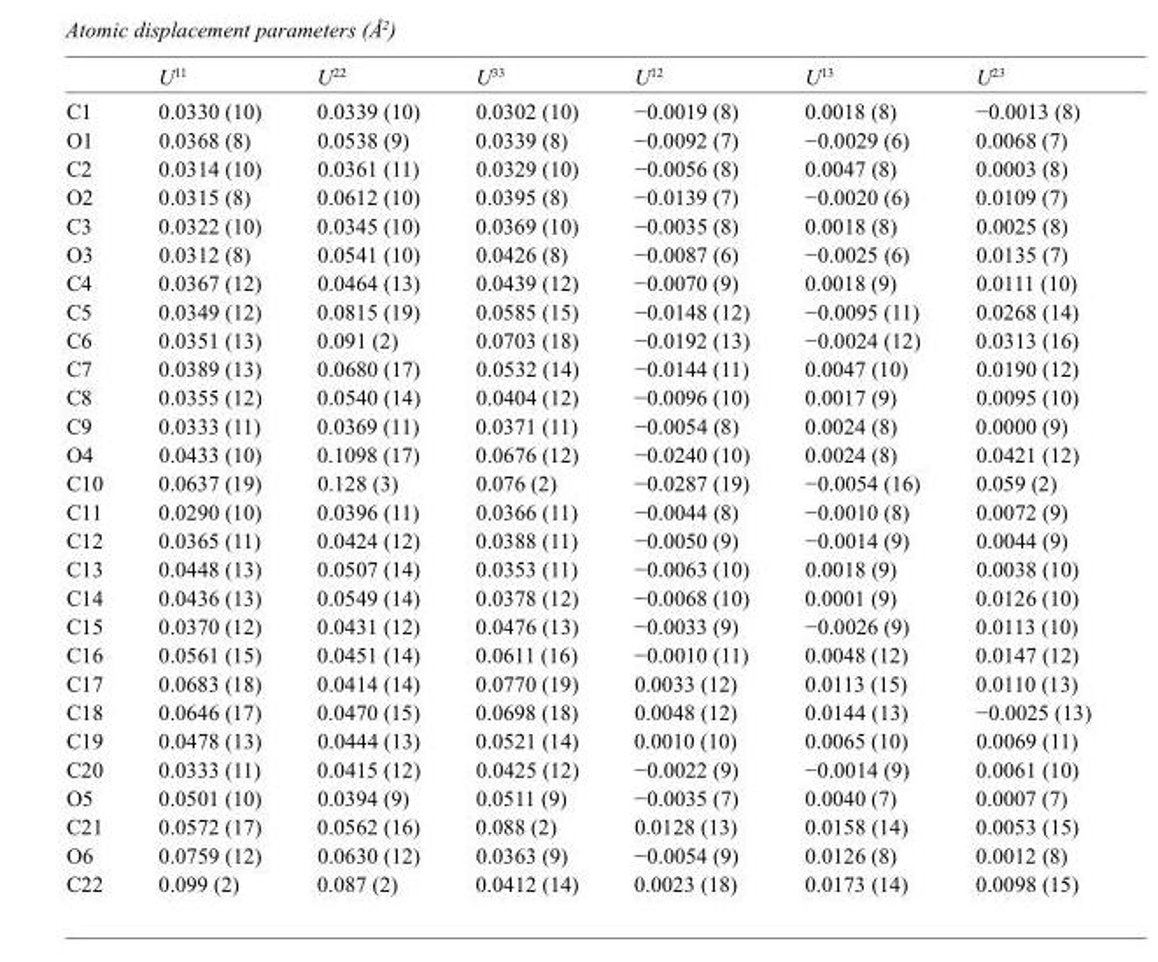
<table><thead><tr><td></td><td>U<sup>11</sup></td><td>U<sup>22</sup></td><td>U<sup>33</sup></td><td>U<sup>12</sup></td><td>U<sup>13</sup></td><td>U<sup>23</sup></td></tr></thead><tbody><tr><td>C1</td><td>0.0330 (10)</td><td>0.0339 (10)</td><td>0.0302 (10)</td><td>−0.0019 (8)</td><td>0.0018 (8)</td><td>−0.0013 (8)</td></tr><tr><td>O1</td><td>0.0368 (8)</td><td>0.0538 (9)</td><td>0.0339 (8)</td><td>−0.0092 (7)</td><td>−0.0029 (6)</td><td>0.0068 (7)</td></tr><tr><td>C2</td><td>0.0314 (10)</td><td>0.0361 (11)</td><td>0.0329 (10)</td><td>−0.0056 (8)</td><td>0.0047 (8)</td><td>0.0003 (8)</td></tr><tr><td>O2</td><td>0.0315 (8)</td><td>0.0612 (10)</td><td>0.0395 (8)</td><td>−0.0139 (7)</td><td>−0.0020 (6)</td><td>0.0109 (7)</td></tr><tr><td>C3</td><td>0.0322 (10)</td><td>0.0345 (10)</td><td>0.0369 (10)</td><td>−0.0035 (8)</td><td>0.0018 (8)</td><td>0.0025 (8)</td></tr><tr><td>O3</td><td>0.0312 (8)</td><td>0.0541 (10)</td><td>0.0426 (8)</td><td>−0.0087 (6)</td><td>−0.0025 (6)</td><td>0.0135 (7)</td></tr><tr><td>C4</td><td>0.0367 (12)</td><td>0.0464 (13)</td><td>0.0439 (12)</td><td>−0.0070 (9)</td><td>0.0018 (9)</td><td>0.0111 (10)</td></tr><tr><td>C5</td><td>0.0349 (12)</td><td>0.0815 (19)</td><td>0.0585 (15)</td><td>−0.0148 (12)</td><td>−0.0095 (11)</td><td>0.0268 (14)</td></tr><tr><td>C6</td><td>0.0351 (13)</td><td>0.091 (2)</td><td>0.0703 (18)</td><td>−0.0192 (13)</td><td>−0.0024 (12)</td><td>0.0313 (16)</td></tr><tr><td>C7</td><td>0.0389 (13)</td><td>0.0680 (17)</td><td>0.0532 (14)</td><td>−0.0144 (11)</td><td>0.0047 (10)</td><td>0.0190 (12)</td></tr><tr><td>C8</td><td>0.0355 (12)</td><td>0.0540 (14)</td><td>0.0404 (12)</td><td>−0.0096 (10)</td><td>0.0017 (9)</td><td>0.0095 (10)</td></tr><tr><td>C9</td><td>0.0333 (11)</td><td>0.0369 (11)</td><td>0.0371 (11)</td><td>−0.0054 (8)</td><td>0.0024 (8)</td><td>0.0000 (9)</td></tr><tr><td>O4</td><td>0.0433 (10)</td><td>0.1098 (17)</td><td>0.0676 (12)</td><td>−0.0240 (10)</td><td>0.0024 (8)</td><td>0.0421 (12)</td></tr><tr><td>C10</td><td>0.0637 (19)</td><td>0.128 (3)</td><td>0.076 (2)</td><td>−0.0287 (19)</td><td>−0.0054 (16)</td><td>0.059 (2)</td></tr><tr><td>C11</td><td>0.0290 (10)</td><td>0.0396 (11)</td><td>0.0366 (11)</td><td>−0.0044 (8)</td><td>−0.0010 (8)</td><td>0.0072 (9)</td></tr><tr><td>C12</td><td>0.0365 (11)</td><td>0.0424 (12)</td><td>0.0388 (11)</td><td>−0.0050 (9)</td><td>−0.0014 (9)</td><td>0.0044 (9)</td></tr><tr><td>C13</td><td>0.0448 (13)</td><td>0.0507 (14)</td><td>0.0353 (11)</td><td>−0.0063 (10)</td><td>0.0018 (9)</td><td>0.0038 (10)</td></tr><tr><td>C14</td><td>0.0436 (13)</td><td>0.0549 (14)</td><td>0.0378 (12)</td><td>−0.0068 (10)</td><td>0.0001 (9)</td><td>0.0126 (10)</td></tr><tr><td>C15</td><td>0.0370 (12)</td><td>0.0431 (12)</td><td>0.0476 (13)</td><td>−0.0033 (9)</td><td>−0.0026 (9)</td><td>0.0113 (10)</td></tr><tr><td>C16</td><td>0.0561 (15)</td><td>0.0451 (14)</td><td>0.0611 (16)</td><td>−0.0010 (11)</td><td>0.0048 (12)</td><td>0.0147 (12)</td></tr><tr><td>C17</td><td>0.0683 (18)</td><td>0.0414 (14)</td><td>0.0770 (19)</td><td>0.0033 (12)</td><td>0.0113 (15)</td><td>0.0110 (13)</td></tr><tr><td>C18</td><td>0.0646 (17)</td><td>0.0470 (15)</td><td>0.0698 (18)</td><td>0.0048 (12)</td><td>0.0144 (13)</td><td>−0.0025 (13)</td></tr><tr><td>C19</td><td>0.0478 (13)</td><td>0.0444 (13)</td><td>0.0521 (14)</td><td>0.0010 (10)</td><td>0.0065 (10)</td><td>0.0069 (11)</td></tr><tr><td>C20</td><td>0.0333 (11)</td><td>0.0415 (12)</td><td>0.0425 (12)</td><td>−0.0022 (9)</td><td>−0.0014 (9)</td><td>0.0061 (10)</td></tr><tr><td>O5</td><td>0.0501 (10)</td><td>0.0394 (9)</td><td>0.0511 (9)</td><td>−0.0035 (7)</td><td>0.0040 (7)</td><td>0.0007 (7)</td></tr><tr><td>C21</td><td>0.0572 (17)</td><td>0.0562 (16)</td><td>0.088 (2)</td><td>0.0128 (13)</td><td>0.0158 (14)</td><td>0.0053 (15)</td></tr><tr><td>O6</td><td>0.0759 (12)</td><td>0.0630 (12)</td><td>0.0363 (9)</td><td>−0.0054 (9)</td><td>0.0126 (8)</td><td>0.0012 (8)</td></tr><tr><td>C22</td><td>0.099 (2)</td><td>0.087 (2)</td><td>0.0412 (14)</td><td>0.0023 (18)</td><td>0.0173 (14)</td><td>0.0098 (15)</td></tr></tbody></table>